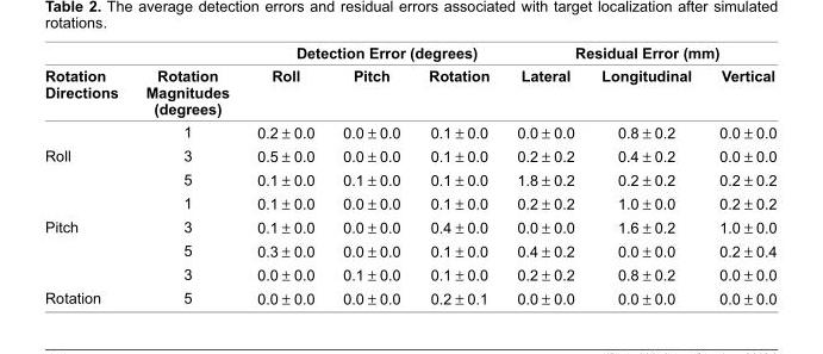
<table><thead><tr><td rowspan="2">Rotation Directions</td><td rowspan="2">Rotation Magnitudes (degrees)</td><td colspan="3">Detection Error (degrees)</td><td colspan="3">Residual Error (mm)</td></tr><tr><td>Roll</td><td>Pitch</td><td>Rotation</td><td>Lateral</td><td>Longitudinal</td><td>Vertical</td></tr></thead><tbody><tr><td></td><td>1</td><td>0.2 ± 0.0</td><td>0.0 ± 0.0</td><td>0.1 ± 0.0</td><td>0.0 ± 0.0</td><td>0.8 ± 0.2</td><td>0.0 ± 0.0</td></tr><tr><td rowspan="3">Roll</td><td>3</td><td>0.5 ± 0.0</td><td>0.0 ± 0.0</td><td>0.1 ± 0.0</td><td>0.2 ± 0.2</td><td>0.4 ± 0.2</td><td>0.0 ± 0.0</td></tr><tr><td>5</td><td>0.1 ± 0.0</td><td>0.1 ± 0.0</td><td>0.1 ± 0.0</td><td>1.8 ± 0.2</td><td>0.2 ± 0.2</td><td>0.2 ± 0.2</td></tr><tr><td>1</td><td>0.1 ± 0.0</td><td>0.0 ± 0.0</td><td>0.1 ± 0.0</td><td>0.2 ± 0.2</td><td>1.0 ± 0.0</td><td>0.2 ± 0.2</td></tr><tr><td rowspan="3">Pitch</td><td>3</td><td>0.1 ± 0.0</td><td>0.0 ± 0.0</td><td>0.4 ± 0.0</td><td>0.0 ± 0.0</td><td>1.6 ± 0.2</td><td>1.0 ± 0.0</td></tr><tr><td>5</td><td>0.3 ± 0.0</td><td>0.0 ± 0.0</td><td>0.1 ± 0.0</td><td>0.4 ± 0.2</td><td>0.0 ± 0.0</td><td>0.2 ± 0.4</td></tr><tr><td>3</td><td>0.0 ± 0.0</td><td>0.1 ± 0.0</td><td>0.1 ± 0.0</td><td>0.2 ± 0.2</td><td>0.8 ± 0.2</td><td>0.0 ± 0.0</td></tr><tr><td>Rotation</td><td>5</td><td>0.0 ± 0.0</td><td>0.0 ± 0.0</td><td>0.2 ± 0.1</td><td>0.0 ± 0.0</td><td>0.0 ± 0.0</td><td>0.0 ± 0.0</td></tr></tbody></table>